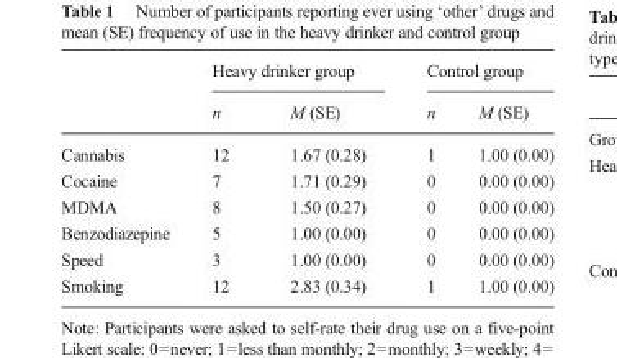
<table><thead><tr><td rowspan="2"></td><td colspan="2">Heavy drinker group</td><td colspan="2">Control group</td></tr><tr><td>n</td><td>M (SE)</td><td>n</td><td>M (SE)</td></tr></thead><tbody><tr><td>Cannabis</td><td>12</td><td>1.67 (0.28)</td><td>1</td><td>1.00 (0.00)</td></tr><tr><td>Cocaine</td><td>7</td><td>1.71 (0.29)</td><td>0</td><td>0.00 (0.00)</td></tr><tr><td>MDMA</td><td>8</td><td>1.50 (0.27)</td><td>0</td><td>0.00 (0.00)</td></tr><tr><td>Benzodiazepine</td><td>5</td><td>1.00 (0.00)</td><td>0</td><td>0.00 (0.00)</td></tr><tr><td>Speed</td><td>3</td><td>1.00 (0.00)</td><td>0</td><td>0.00 (0.00)</td></tr><tr><td>Smoking</td><td>12</td><td>2.83 (0.34)</td><td>1</td><td>1.00 (0.00)</td></tr></tbody></table>